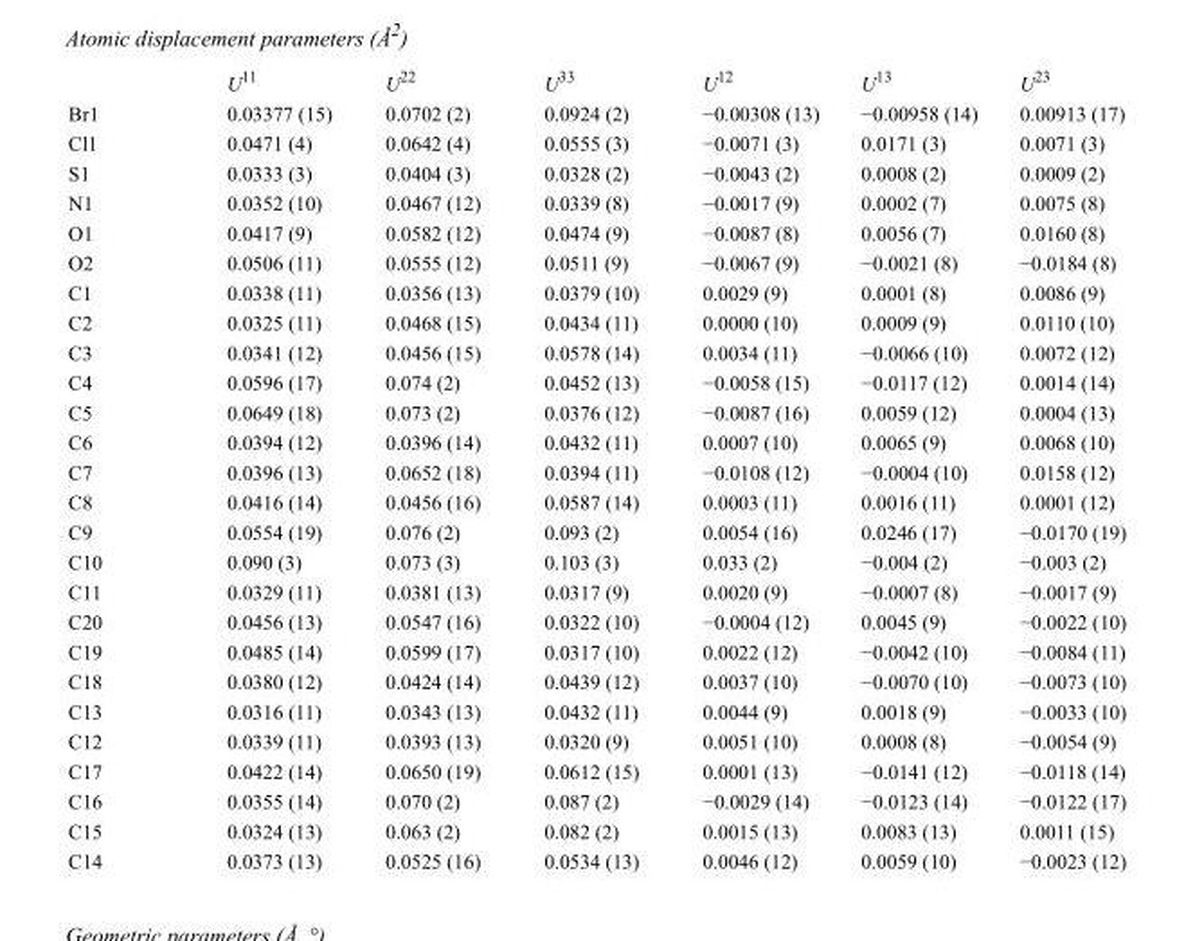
<table><thead><tr><td></td><td>U<sup>11</sup></td><td>U<sup>22</sup></td><td>U<sup>33</sup></td><td>U<sup>12</sup></td><td>U<sup>13</sup></td><td>U<sup>23</sup></td></tr></thead><tbody><tr><td>Br1</td><td>0.03377 (15)</td><td>0.0702 (2)</td><td>0.0924 (2)</td><td>−0.00308 (13)</td><td>−0.00958 (14)</td><td>0.00913 (17)</td></tr><tr><td>Cl1</td><td>0.0471 (4)</td><td>0.0642 (4)</td><td>0.0555 (3)</td><td>−0.0071 (3)</td><td>0.0171 (3)</td><td>0.0071 (3)</td></tr><tr><td>S1</td><td>0.0333 (3)</td><td>0.0404 (3)</td><td>0.0328 (2)</td><td>−0.0043 (2)</td><td>0.0008 (2)</td><td>0.0009 (2)</td></tr><tr><td>N1</td><td>0.0352 (10)</td><td>0.0467 (12)</td><td>0.0339 (8)</td><td>−0.0017 (9)</td><td>0.0002 (7)</td><td>0.0075 (8)</td></tr><tr><td>O1</td><td>0.0417 (9)</td><td>0.0582 (12)</td><td>0.0474 (9)</td><td>−0.0087 (8)</td><td>0.0056 (7)</td><td>0.0160 (8)</td></tr><tr><td>O2</td><td>0.0506 (11)</td><td>0.0555 (12)</td><td>0.0511 (9)</td><td>−0.0067 (9)</td><td>−0.0021 (8)</td><td>−0.0184 (8)</td></tr><tr><td>C1</td><td>0.0338 (11)</td><td>0.0356 (13)</td><td>0.0379 (10)</td><td>0.0029 (9)</td><td>0.0001 (8)</td><td>0.0086 (9)</td></tr><tr><td>C2</td><td>0.0325 (11)</td><td>0.0468 (15)</td><td>0.0434 (11)</td><td>0.0000 (10)</td><td>0.0009 (9)</td><td>0.0110 (10)</td></tr><tr><td>C3</td><td>0.0341 (12)</td><td>0.0456 (15)</td><td>0.0578 (14)</td><td>0.0034 (11)</td><td>−0.0066 (10)</td><td>0.0072 (12)</td></tr><tr><td>C4</td><td>0.0596 (17)</td><td>0.074 (2)</td><td>0.0452 (13)</td><td>−0.0058 (15)</td><td>−0.0117 (12)</td><td>0.0014 (14)</td></tr><tr><td>C5</td><td>0.0649 (18)</td><td>0.073 (2)</td><td>0.0376 (12)</td><td>−0.0087 (16)</td><td>0.0059 (12)</td><td>0.0004 (13)</td></tr><tr><td>C6</td><td>0.0394 (12)</td><td>0.0396 (14)</td><td>0.0432 (11)</td><td>0.0007 (10)</td><td>0.0065 (9)</td><td>0.0068 (10)</td></tr><tr><td>C7</td><td>0.0396 (13)</td><td>0.0652 (18)</td><td>0.0394 (11)</td><td>−0.0108 (12)</td><td>−0.0004 (10)</td><td>0.0158 (12)</td></tr><tr><td>C8</td><td>0.0416 (14)</td><td>0.0456 (16)</td><td>0.0587 (14)</td><td>0.0003 (11)</td><td>0.0016 (11)</td><td>0.0001 (12)</td></tr><tr><td>C9</td><td>0.0554 (19)</td><td>0.076 (2)</td><td>0.093 (2)</td><td>0.0054 (16)</td><td>0.0246 (17)</td><td>−0.0170 (19)</td></tr><tr><td>C10</td><td>0.090 (3)</td><td>0.073 (3)</td><td>0.103 (3)</td><td>0.033 (2)</td><td>−0.004 (2)</td><td>−0.003 (2)</td></tr><tr><td>C11</td><td>0.0329 (11)</td><td>0.0381 (13)</td><td>0.0317 (9)</td><td>0.0020 (9)</td><td>−0.0007 (8)</td><td>−0.0017 (9)</td></tr><tr><td>C20</td><td>0.0456 (13)</td><td>0.0547 (16)</td><td>0.0322 (10)</td><td>−0.0004 (12)</td><td>0.0045 (9)</td><td>−0.0022 (10)</td></tr><tr><td>C19</td><td>0.0485 (14)</td><td>0.0599 (17)</td><td>0.0317 (10)</td><td>0.0022 (12)</td><td>−0.0042 (10)</td><td>−0.0084 (11)</td></tr><tr><td>C18</td><td>0.0380 (12)</td><td>0.0424 (14)</td><td>0.0439 (12)</td><td>0.0037 (10)</td><td>−0.0070 (10)</td><td>−0.0073 (10)</td></tr><tr><td>C13</td><td>0.0316 (11)</td><td>0.0343 (13)</td><td>0.0432 (11)</td><td>0.0044 (9)</td><td>0.0018 (9)</td><td>−0.0033 (10)</td></tr><tr><td>C12</td><td>0.0339 (11)</td><td>0.0393 (13)</td><td>0.0320 (9)</td><td>0.0051 (10)</td><td>0.0008 (8)</td><td>−0.0054 (9)</td></tr><tr><td>C17</td><td>0.0422 (14)</td><td>0.0650 (19)</td><td>0.0612 (15)</td><td>0.0001 (13)</td><td>−0.0141 (12)</td><td>−0.0118 (14)</td></tr><tr><td>C16</td><td>0.0355 (14)</td><td>0.070 (2)</td><td>0.087 (2)</td><td>−0.0029 (14)</td><td>−0.0123 (14)</td><td>−0.0122 (17)</td></tr><tr><td>C15</td><td>0.0324 (13)</td><td>0.063 (2)</td><td>0.082 (2)</td><td>0.0015 (13)</td><td>0.0083 (13)</td><td>0.0011 (15)</td></tr><tr><td>C14</td><td>0.0373 (13)</td><td>0.0525 (16)</td><td>0.0534 (13)</td><td>0.0046 (12)</td><td>0.0059 (10)</td><td>−0.0023 (12)</td></tr></tbody></table>